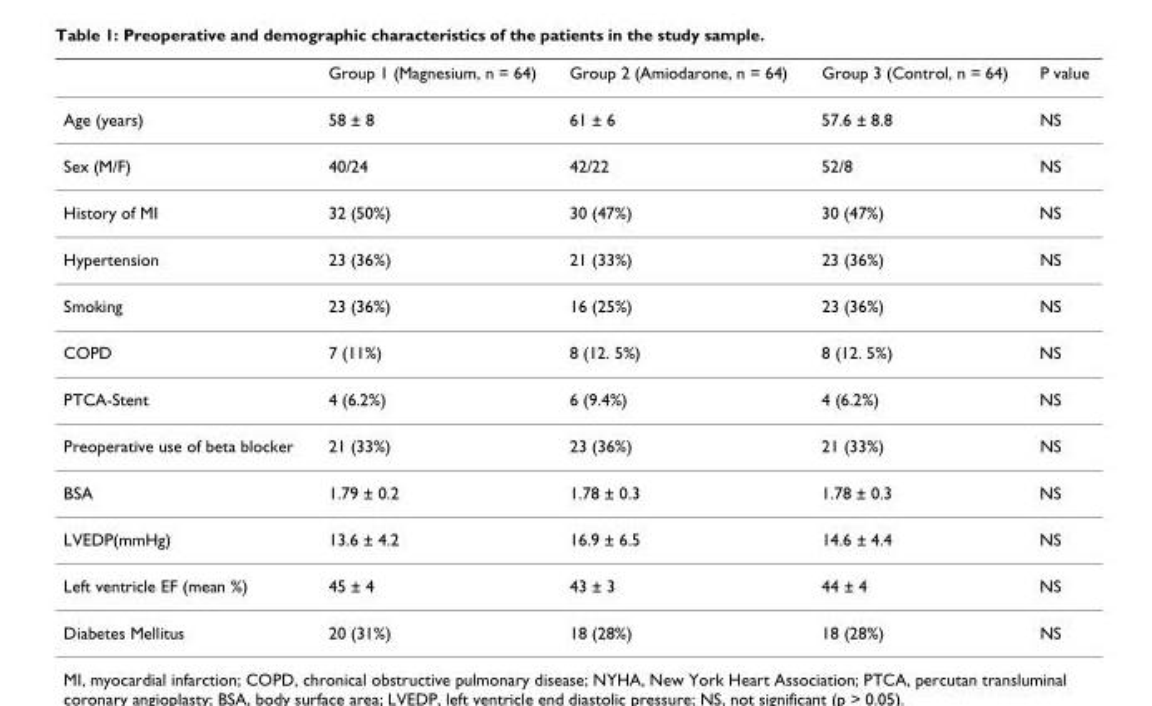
<table><thead><tr><td></td><td>Group 1 (Magnesium, n = 64)</td><td>Group 2 (Amiodarone, n = 64)</td><td>Group 3 (Control, n = 64)</td><td>P value</td></tr></thead><tbody><tr><td>Age (years)</td><td>58 ± 8</td><td>61 ± 6</td><td>57.6 ± 8.8</td><td>NS</td></tr><tr><td>Sex (M/F)</td><td>40/24</td><td>42/22</td><td>52/8</td><td>NS</td></tr><tr><td>History of MI</td><td>32 (50%)</td><td>30 (47%)</td><td>30 (47%)</td><td>NS</td></tr><tr><td>Hypertension</td><td>23 (36%)</td><td>21 (33%)</td><td>23 (36%)</td><td>NS</td></tr><tr><td>Smoking</td><td>23 (36%)</td><td>16 (25%)</td><td>23 (36%)</td><td>NS</td></tr><tr><td>COPD</td><td>7 (11%)</td><td>8 (12. 5%)</td><td>8 (12. 5%)</td><td>NS</td></tr><tr><td>PTCA-Stent</td><td>4 (6.2%)</td><td>6 (9.4%)</td><td>4 (6.2%)</td><td>NS</td></tr><tr><td>Preoperative use of beta blocker</td><td>21 (33%)</td><td>23 (36%)</td><td>21 (33%)</td><td>NS</td></tr><tr><td>BSA</td><td>1.79 ± 0.2</td><td>1.78 ± 0.3</td><td>1.78 ± 0.3</td><td>NS</td></tr><tr><td>LVEDP(mmHg)</td><td>13.6 ± 4.2</td><td>16.9 ± 6.5</td><td>14.6 ± 4.4</td><td>NS</td></tr><tr><td>Left ventricle EF (mean %)</td><td>45 ± 4</td><td>43 ± 3</td><td>44 ± 4</td><td>NS</td></tr><tr><td>Diabetes Mellitus</td><td>20 (31%)</td><td>18 (28%)</td><td>18 (28%)</td><td>NS</td></tr></tbody></table>